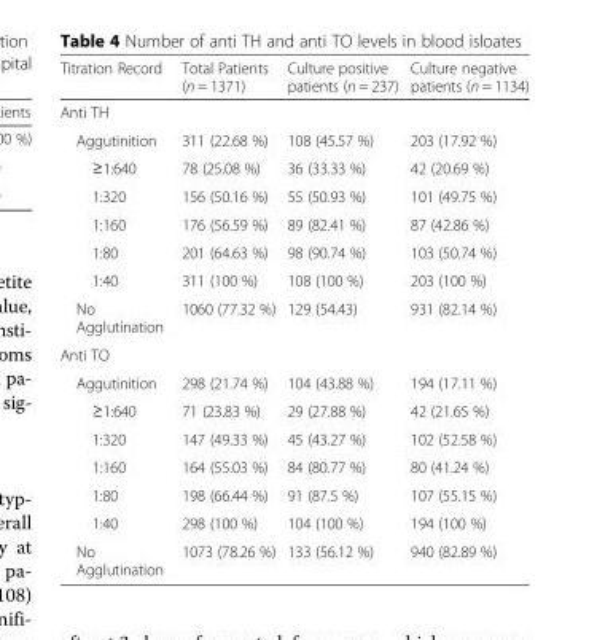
<table><thead><tr><td>Titration Record</td><td>Total Patients (n = 1371)</td><td>Culture positive patients (n = 237)</td><td>Culture negative patients (n = 1134)</td></tr></thead><tbody><tr><td colspan="4">Anti TH</td></tr><tr><td>Aggutinition</td><td>311 (22.68 %)</td><td>108 (45.57 %)</td><td>203 (17.92 %)</td></tr><tr><td>≥1:640</td><td>78 (25.08 %)</td><td>36 (33.33 %)</td><td>42 (20.69 %)</td></tr><tr><td>1:320</td><td>156 (50.16 %)</td><td>55 (50.93 %)</td><td>101 (49.75 %)</td></tr><tr><td>1:160</td><td>176 (56.59 %)</td><td>89 (82.41 %)</td><td>87 (42.86 %)</td></tr><tr><td>1:80</td><td>201 (64.63 %)</td><td>98 (90.74 %)</td><td>103 (50.74 %)</td></tr><tr><td>1:40</td><td>311 (100 %)</td><td>108 (100 %)</td><td>203 (100 %)</td></tr><tr><td>No Agglutination</td><td>1060 (77.32 %)</td><td>129 (54.43)</td><td>931 (82.14 %)</td></tr><tr><td colspan="4">Anti TO</td></tr><tr><td>Aggutinition</td><td>298 (21.74 %)</td><td>104 (43.88 %)</td><td>194 (17.11 %)</td></tr><tr><td>≥1:640</td><td>71 (23.83 %)</td><td>29 (27.88 %)</td><td>42 (21.65 %)</td></tr><tr><td>1:320</td><td>147 (49.33 %)</td><td>45 (43.27 %)</td><td>102 (52.58 %)</td></tr><tr><td>1:160</td><td>164 (55.03 %)</td><td>84 (80.77 %)</td><td>80 (41.24 %)</td></tr><tr><td>1:80</td><td>198 (66.44 %)</td><td>91 (87.5 %)</td><td>107 (55.15 %)</td></tr><tr><td>1:40</td><td>298 (100 %)</td><td>104 (100 %)</td><td>194 (100 %)</td></tr><tr><td>No Agglutination</td><td>1073 (78.26 %)</td><td>133 (56.12 %)</td><td>940 (82.89 %)</td></tr></tbody></table>